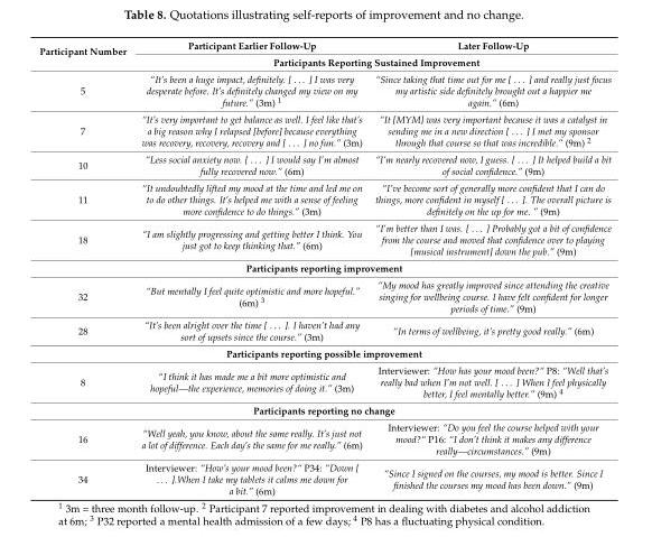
<table><thead><tr><td rowspan="2">Participant Number</td><td>Participant Earlier Follow-Up</td><td>Later Follow-Up</td></tr><tr><td colspan="2">Participants Reporting Sustained Improvement</td></tr></thead><tbody><tr><td>5</td><td>“It’s been a huge impact, definitely. [ . . . ] I was very desperate before. It’s definitely changed my view on my future.” (3m) <sup>1</sup></td><td>“Since taking that time out for me [ . . . ] and really just focus my artistic side definitely brought out a happier me again.” (6m)</td></tr><tr><td>7</td><td>“It’s very important to get balance as well. I feel like that’s a big reason why I relapsed [before] because everything was recovery, recovery, recovery and [ . . . ] no fun.” (3m)</td><td>“It [MYM] was very important because it was a catalyst in sending me in a new direction [ . . . ] I met my sponsor through that course so that was incredible.” (9m) <sup>2</sup></td></tr><tr><td>10</td><td>“Less social anxiety now. [ . . . ] I would say I’m almost fully recovered now.” (6m)</td><td>“I’m nearly recovered now, I guess. [ . . . ] It helped build a bit of social confidence.” (9m)</td></tr><tr><td>11</td><td>“It undoubtedly lifted my mood at the time and led me on to do other things. It’s helped me with a sense of feeling more confidence to do things.” (3m)</td><td>“I’ve become sort of generally more confident that I can do things, more confident in myself [ . . . ]. The overall picture is definitely on the up for me. ” (9m)</td></tr><tr><td>18</td><td>“I am slightly progressing and getting better I think. You just got to keep thinking that.” (6m)</td><td>“I’m better than I was. [ . . . ] Probably got a bit of confidence from the course and moved that confidence over to playing [musical instrument] down the pub.” (9m)</td></tr><tr><td colspan="3">Participants reporting improvement</td></tr><tr><td>32</td><td>“But mentally I feel quite optimistic and more hopeful.” (6m) <sup>3</sup></td><td>“My mood has greatly improved since attending the creative singing for wellbeing course. I have felt confident for longer periods of time.” (9m)</td></tr><tr><td>28</td><td>“It’s been alright over the time [ . . . ]. I haven’t had any sort of upsets since the course.” (3m)</td><td>“In terms of wellbeing, it’s pretty good really.” (6m)</td></tr><tr><td colspan="3">Participants reporting possible improvement</td></tr><tr><td>8</td><td>“I think it has made me a bit more optimistic and hopeful—the experience, memories of doing it.” (3m)</td><td>Interviewer: “How has your mood been?“ P8: “Well that’s really bad when I’m not well. [ . . . ] When I feel physically better, I feel mentally better.” (9m) <sup>4</sup></td></tr><tr><td colspan="3">Participants reporting no change</td></tr><tr><td>16</td><td>“Well yeah, you know, about the same really. It’s just not a lot of difference. Each day’s the same for me really.” (6m)</td><td>Interviewer: “Do you feel the course helped with your mood?“ P16: “I don’t think it makes any difference really—circumstances.” (9m)</td></tr><tr><td>34</td><td>Interviewer: “How’s your mood been?“ P34: “Down [ . . . ].When I take my tablets it calms me down for a bit.” (6m)</td><td>“Since I signed on the courses, my mood is better. Since I finished the courses my mood has been down.” (9m)</td></tr></tbody></table>